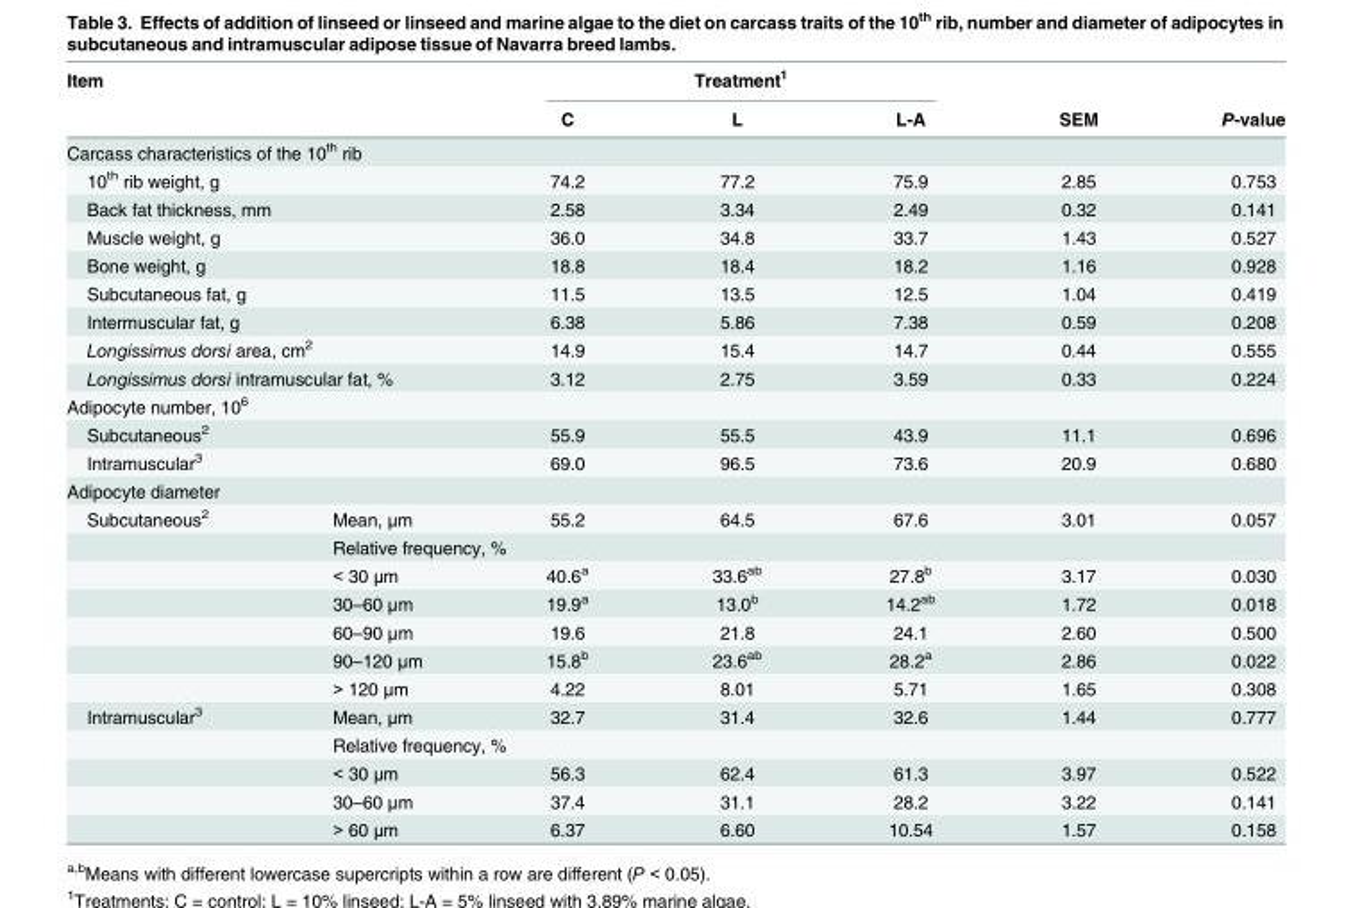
<table><thead><tr><td rowspan="2" colspan="2">Item</td><td colspan="3">Treatment<sup>1</sup></td><td rowspan="2">SEM</td><td rowspan="2">P-value</td></tr><tr><td>C</td><td>L</td><td>L-A</td></tr></thead><tbody><tr><td colspan="7">Carcass characteristics of the 10<sup>th</sup> rib</td></tr><tr><td colspan="2">10<sup>th</sup> rib weight, g</td><td>74.2</td><td>77.2</td><td>75.9</td><td>2.85</td><td>0.753</td></tr><tr><td colspan="2">Back fat thickness, mm</td><td>2.58</td><td>3.34</td><td>2.49</td><td>0.32</td><td>0.141</td></tr><tr><td colspan="2">Muscle weight, g</td><td>36.0</td><td>34.8</td><td>33.7</td><td>1.43</td><td>0.527</td></tr><tr><td colspan="2">Bone weight, g</td><td>18.8</td><td>18.4</td><td>18.2</td><td>1.16</td><td>0.928</td></tr><tr><td colspan="2">Subcutaneous fat, g</td><td>11.5</td><td>13.5</td><td>12.5</td><td>1.04</td><td>0.419</td></tr><tr><td colspan="2">Intermuscular fat, g</td><td>6.38</td><td>5.86</td><td>7.38</td><td>0.59</td><td>0.208</td></tr><tr><td colspan="2">Longissimus dorsi area, cm<sup>2</sup></td><td>14.9</td><td>15.4</td><td>14.7</td><td>0.44</td><td>0.555</td></tr><tr><td colspan="2">Longissimus dorsi intramuscular fat, %</td><td>3.12</td><td>2.75</td><td>3.59</td><td>0.33</td><td>0.224</td></tr><tr><td colspan="7">Adipocyte number, 10<sup>6</sup></td></tr><tr><td colspan="2">Subcutaneous<sup>2</sup></td><td>55.9</td><td>55.5</td><td>43.9</td><td>11.1</td><td>0.696</td></tr><tr><td colspan="2">Intramuscular<sup>3</sup></td><td>69.0</td><td>96.5</td><td>73.6</td><td>20.9</td><td>0.680</td></tr><tr><td colspan="7">Adipocyte diameter</td></tr><tr><td rowspan="7">Subcutaneous<sup>2</sup></td><td>Mean, μm</td><td>55.2</td><td>64.5</td><td>67.6</td><td>3.01</td><td>0.057</td></tr><tr><td colspan="6">Relative frequency, %</td></tr><tr><td>&lt; 30 μm</td><td>40.6<sup>a</sup></td><td>33.6<sup>ab</sup></td><td>27.8<sup>b</sup></td><td>3.17</td><td>0.030</td></tr><tr><td>30–60 μm</td><td>19.9<sup>a</sup></td><td>13.0<sup>b</sup></td><td>14.2<sup>ab</sup></td><td>1.72</td><td>0.018</td></tr><tr><td>60–90 μm</td><td>19.6</td><td>21.8</td><td>24.1</td><td>2.60</td><td>0.500</td></tr><tr><td>90–120 μm</td><td>15.8<sup>b</sup></td><td>23.6<sup>ab</sup></td><td>28.2<sup>a</sup></td><td>2.86</td><td>0.022</td></tr><tr><td>&gt; 120 μm</td><td>4.22</td><td>8.01</td><td>5.71</td><td>1.65</td><td>0.308</td></tr><tr><td rowspan="5">Intramuscular<sup>3</sup></td><td>Mean, μm</td><td>32.7</td><td>31.4</td><td>32.6</td><td>1.44</td><td>0.777</td></tr><tr><td colspan="6">Relative frequency, %</td></tr><tr><td>&lt; 30 μm</td><td>56.3</td><td>62.4</td><td>61.3</td><td>3.97</td><td>0.522</td></tr><tr><td>30–60 μm</td><td>37.4</td><td>31.1</td><td>28.2</td><td>3.22</td><td>0.141</td></tr><tr><td>&gt; 60 μm</td><td>6.37</td><td>6.60</td><td>10.54</td><td>1.57</td><td>0.158</td></tr></tbody></table>